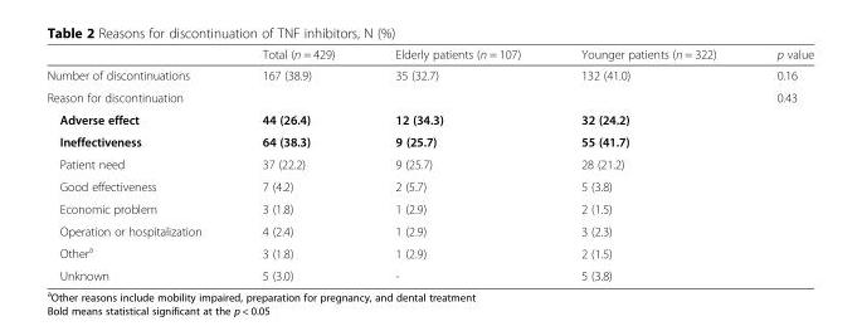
<table><thead><tr><td></td><td>Total (n = 429)</td><td>Elderly patients (n = 107)</td><td>Younger patients (n = 322)</td><td>p value</td></tr></thead><tbody><tr><td>Number of discontinuations</td><td>167 (38.9)</td><td>35 (32.7)</td><td>132 (41.0)</td><td>0.16</td></tr><tr><td>Reason for discontinuation</td><td></td><td></td><td></td><td>0.43</td></tr><tr><td>Adverse effect</td><td>44 (26.4)</td><td>12 (34.3)</td><td>32 (24.2)</td><td></td></tr><tr><td>Ineffectiveness</td><td>64 (38.3)</td><td>9 (25.7)</td><td>55 (41.7)</td><td></td></tr><tr><td>Patient need</td><td>37 (22.2)</td><td>9 (25.7)</td><td>28 (21.2)</td><td></td></tr><tr><td>Good effectiveness</td><td>7 (4.2)</td><td>2 (5.7)</td><td>5 (3.8)</td><td></td></tr><tr><td>Economic problem</td><td>3 (1.8)</td><td>1 (2.9)</td><td>2 (1.5)</td><td></td></tr><tr><td>Operation or hospitalization</td><td>4 (2.4)</td><td>1 (2.9)</td><td>3 (2.3)</td><td></td></tr><tr><td>Other<sup>a</sup></td><td>3 (1.8)</td><td>1 (2.9)</td><td>2 (1.5)</td><td></td></tr><tr><td>Unknown</td><td>5 (3.0)</td><td>-</td><td>5 (3.8)</td><td></td></tr></tbody></table>